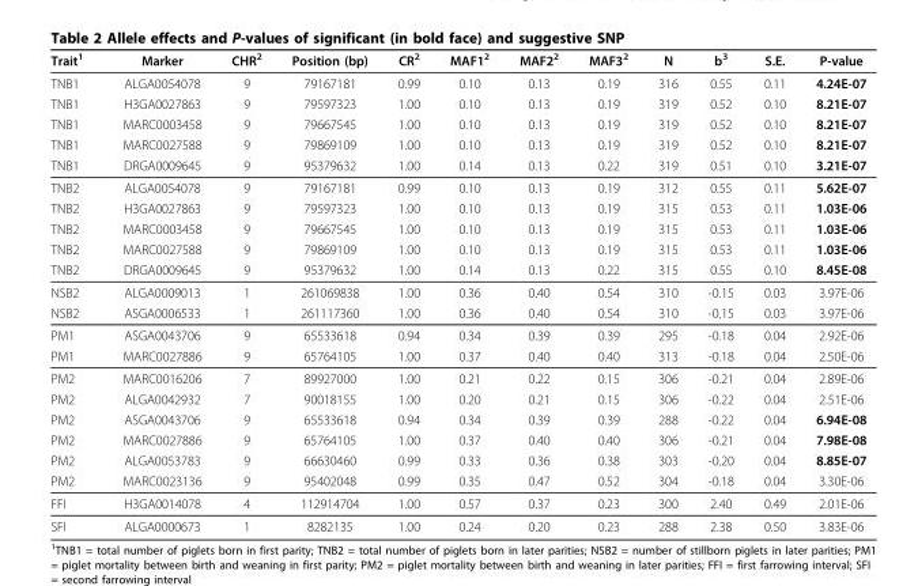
<table><thead><tr><td>Trait<sup>1</sup></td><td>Marker</td><td>CHR<sup>2</sup></td><td>Position (bp)</td><td>CR<sup>2</sup></td><td>MAF1<sup>2</sup></td><td>MAF2<sup>2</sup></td><td>MAF3<sup>2</sup></td><td>N</td><td>b<sup>3</sup></td><td>S.E.</td><td>P-value</td></tr></thead><tbody><tr><td>TNB1</td><td>ALGA0054078</td><td>9</td><td>79167181</td><td>0.99</td><td>0.10</td><td>0.13</td><td>0.19</td><td>316</td><td>0.55</td><td>0.11</td><td>4.24E-07</td></tr><tr><td>TNB1</td><td>H3GA0027863</td><td>9</td><td>79597323</td><td>1.00</td><td>0.10</td><td>0.13</td><td>0.19</td><td>319</td><td>0.52</td><td>0.10</td><td>8.21E-07</td></tr><tr><td>TNB1</td><td>MARC0003458</td><td>9</td><td>79667545</td><td>1.00</td><td>0.10</td><td>0.13</td><td>0.19</td><td>319</td><td>0.52</td><td>0.10</td><td>8.21E-07</td></tr><tr><td>TNB1</td><td>MARC0027588</td><td>9</td><td>79869109</td><td>1.00</td><td>0.10</td><td>0.13</td><td>0.19</td><td>319</td><td>0.52</td><td>0.10</td><td>8.21E-07</td></tr><tr><td>TNB1</td><td>DRGA0009645</td><td>9</td><td>95379632</td><td>1.00</td><td>0.14</td><td>0.13</td><td>0.22</td><td>319</td><td>0.51</td><td>0.10</td><td>3.21E-07</td></tr><tr><td>TNB2</td><td>ALGA0054078</td><td>9</td><td>79167181</td><td>0.99</td><td>0.10</td><td>0.13</td><td>0.19</td><td>312</td><td>0.55</td><td>0.11</td><td>5.62E-07</td></tr><tr><td>TNB2</td><td>H3GA0027863</td><td>9</td><td>79597323</td><td>1.00</td><td>0.10</td><td>0.13</td><td>0.19</td><td>315</td><td>0.53</td><td>0.11</td><td>1.03E-06</td></tr><tr><td>TNB2</td><td>MARC0003458</td><td>9</td><td>79667545</td><td>1.00</td><td>0.10</td><td>0.13</td><td>0.19</td><td>315</td><td>0.53</td><td>0.11</td><td>1.03E-06</td></tr><tr><td>TNB2</td><td>MARC0027588</td><td>9</td><td>79869109</td><td>1.00</td><td>0.10</td><td>0.13</td><td>0.19</td><td>315</td><td>0.53</td><td>0.11</td><td>1.03E-06</td></tr><tr><td>TNB2</td><td>DRGA0009645</td><td>9</td><td>95379632</td><td>1.00</td><td>0.14</td><td>0.13</td><td>0.22</td><td>315</td><td>0.55</td><td>0.10</td><td>8.45E-08</td></tr><tr><td>NSB2</td><td>ALGA0009013</td><td>1</td><td>261069838</td><td>1.00</td><td>0.36</td><td>0.40</td><td>0.54</td><td>310</td><td>-0.15</td><td>0.03</td><td>3.97E-06</td></tr><tr><td>NSB2</td><td>ASGA0006533</td><td>1</td><td>261117360</td><td>1.00</td><td>0.36</td><td>0.40</td><td>0.54</td><td>310</td><td>-0.15</td><td>0.03</td><td>3.97E-06</td></tr><tr><td>PM1</td><td>ASGA0043706</td><td>9</td><td>65533618</td><td>0.94</td><td>0.34</td><td>0.39</td><td>0.39</td><td>295</td><td>-0.18</td><td>0.04</td><td>2.92E-06</td></tr><tr><td>PM1</td><td>MARC0027886</td><td>9</td><td>65764105</td><td>1.00</td><td>0.37</td><td>0.40</td><td>0.40</td><td>313</td><td>-0.18</td><td>0.04</td><td>2.50E-06</td></tr><tr><td>PM2</td><td>MARC0016206</td><td>7</td><td>89927000</td><td>1.00</td><td>0.21</td><td>0.22</td><td>0.15</td><td>306</td><td>-0.21</td><td>0.04</td><td>2.89E-06</td></tr><tr><td>PM2</td><td>ALGA0042932</td><td>7</td><td>90018155</td><td>1.00</td><td>0.20</td><td>0.21</td><td>0.15</td><td>306</td><td>-0.22</td><td>0.04</td><td>2.51E-06</td></tr><tr><td>PM2</td><td>ASGA0043706</td><td>9</td><td>65533618</td><td>0.94</td><td>0.34</td><td>0.39</td><td>0.39</td><td>288</td><td>-0.22</td><td>0.04</td><td>6.94E-08</td></tr><tr><td>PM2</td><td>MARC0027886</td><td>9</td><td>65764105</td><td>1.00</td><td>0.37</td><td>0.40</td><td>0.40</td><td>306</td><td>-0.21</td><td>0.04</td><td>7.98E-08</td></tr><tr><td>PM2</td><td>ALGA0053783</td><td>9</td><td>66630460</td><td>0.99</td><td>0.33</td><td>0.36</td><td>0.38</td><td>303</td><td>-0.20</td><td>0.04</td><td>8.85E-07</td></tr><tr><td>PM2</td><td>MARC0023136</td><td>9</td><td>95402048</td><td>0.99</td><td>0.35</td><td>0.47</td><td>0.52</td><td>304</td><td>-0.18</td><td>0.04</td><td>3.30E-06</td></tr><tr><td>FFI</td><td>H3GA0014078</td><td>4</td><td>112914704</td><td>1.00</td><td>0.57</td><td>0.37</td><td>0.23</td><td>300</td><td>2.40</td><td>0.49</td><td>2.01E-06</td></tr><tr><td>SFI</td><td>ALGA0000673</td><td>1</td><td>8282135</td><td>1.00</td><td>0.24</td><td>0.20</td><td>0.23</td><td>288</td><td>2.38</td><td>0.50</td><td>3.83E-06</td></tr></tbody></table>